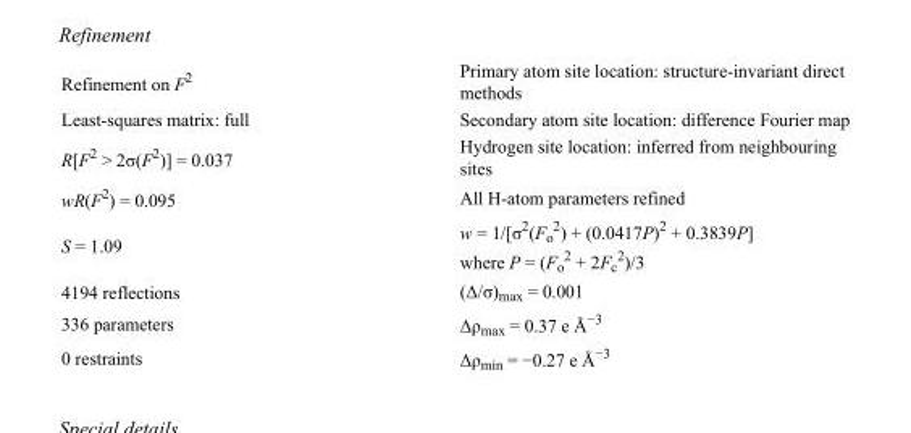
<table><tbody><tr><td>Refinement on F<sup>2</sup></td><td>Primary atom site location: structure-invariant direct methods</td></tr><tr><td>Least-squares matrix: full</td><td>Secondary atom site location: difference Fourier map</td></tr><tr><td>R[F<sup>2</sup> &gt; 2σ(F<sup>2</sup>)] = 0.037</td><td>Hydrogen site location: inferred from neighbouring sites</td></tr><tr><td>wR(F<sup>2</sup>) = 0.095</td><td>All H-atom parameters refined</td></tr><tr><td>S = 1.09</td><td>w = 1/[σ<sup>2</sup>(F<sub>o</sub> <sup>2</sup>) + (0.0417P)<sup>2</sup> + 0.3839P] where P = (F<sub>o</sub> <sup>2</sup> + 2F<sub>c</sub> <sup>2</sup>)/3</td></tr><tr><td>4194 reflections</td><td>(Δ/σ)<sub>max</sub> = 0.001</td></tr><tr><td>336 parameters</td><td>Δρ<sub>max</sub> = 0.37 e Å<sup>−3</sup></td></tr><tr><td>0 restraints</td><td>Δρ<sub>min</sub> = −0.27 e Å<sup>−3</sup></td></tr></tbody></table>